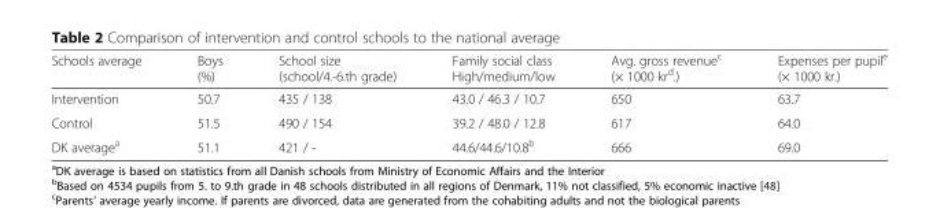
<table><thead><tr><td>Schools average</td><td>Boys (%)</td><td>School size (school/4.-6.th grade)</td><td>Family social class High/medium/low</td><td>Avg. gross revenue<sup>c</sup> (× 1000 kr<sup>d</sup>.)</td><td>Expenses per pupil<sup>e</sup> (× 1000 kr.)</td></tr></thead><tbody><tr><td>Intervention</td><td>50.7</td><td>435 / 138</td><td>43.0 / 46.3 / 10.7</td><td>650</td><td>63.7</td></tr><tr><td>Control</td><td>51.5</td><td>490 / 154</td><td>39.2 / 48.0 / 12.8</td><td>617</td><td>64.0</td></tr><tr><td>DK average<sup>a</sup></td><td>51.1</td><td>421 / -</td><td>44.6/44.6/10.8<sup>b</sup></td><td>666</td><td>69.0</td></tr></tbody></table>